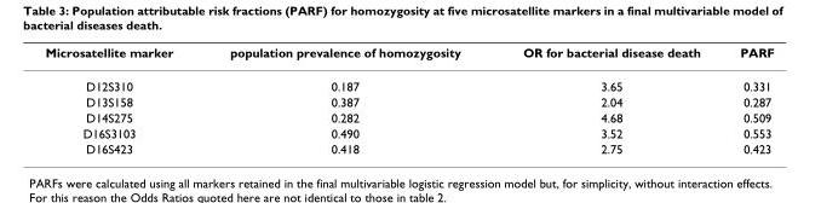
<table><thead><tr><td>Microsatellite marker</td><td>population prevalence of homozygosity</td><td>OR for bacterial disease death</td><td>PARF</td></tr></thead><tbody><tr><td>D12S310</td><td>0.187</td><td>3.65</td><td>0.331</td></tr><tr><td>D13S158</td><td>0.387</td><td>2.04</td><td>0.287</td></tr><tr><td>D14S275</td><td>0.282</td><td>4.68</td><td>0.509</td></tr><tr><td>D16S3103</td><td>0.490</td><td>3.52</td><td>0.553</td></tr><tr><td>D16S423</td><td>0.418</td><td>2.75</td><td>0.423</td></tr></tbody></table>